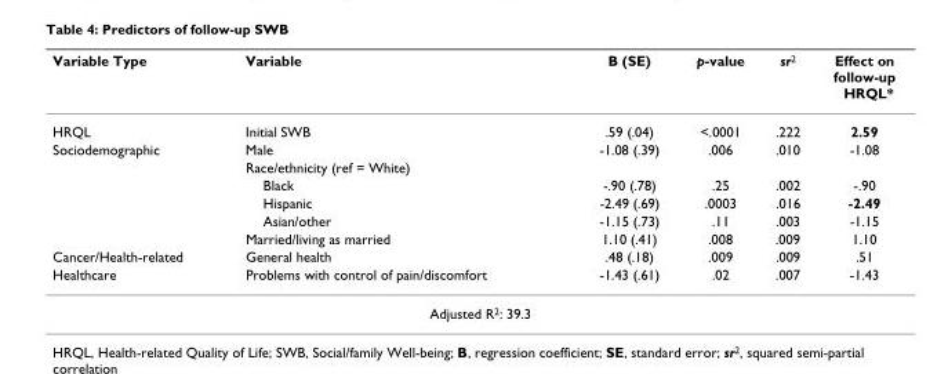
<table><thead><tr><td>Variable Type</td><td>Variable</td><td>B (SE)</td><td>p-value</td><td>sr<sup>2</sup></td><td>Effect on follow-up HRQL*</td></tr></thead><tbody><tr><td>HRQL</td><td>Initial SWB</td><td>.59 (.04)</td><td>&lt;.0001</td><td>.222</td><td>2.59</td></tr><tr><td rowspan="6">Sociodemographic</td><td>Male</td><td>-1.08 (.39)</td><td>.006</td><td>.010</td><td>-1.08</td></tr><tr><td>Race/ethnicity (ref = White)</td><td></td><td></td><td></td><td></td></tr><tr><td>Black</td><td>-.90 (.78)</td><td>.25</td><td>.002</td><td>-.90</td></tr><tr><td>Hispanic</td><td>-2.49 (.69)</td><td>.0003</td><td>.016</td><td>-2.49</td></tr><tr><td>Asian/other</td><td>-1.15 (.73)</td><td>.11</td><td>.003</td><td>-1.15</td></tr><tr><td>Married/living as married</td><td>1.10 (.41)</td><td>.008</td><td>.009</td><td>1.10</td></tr><tr><td>Cancer/Health-related</td><td>General health</td><td>.48 (.18)</td><td>.009</td><td>.009</td><td>.51</td></tr><tr><td>Healthcare</td><td>Problems with control of pain/discomfort</td><td>-1.43 (.61)</td><td>.02</td><td>.007</td><td>-1.43</td></tr><tr><td colspan="6">Adjusted R<sup>2</sup>: 39.3</td></tr></tbody></table>